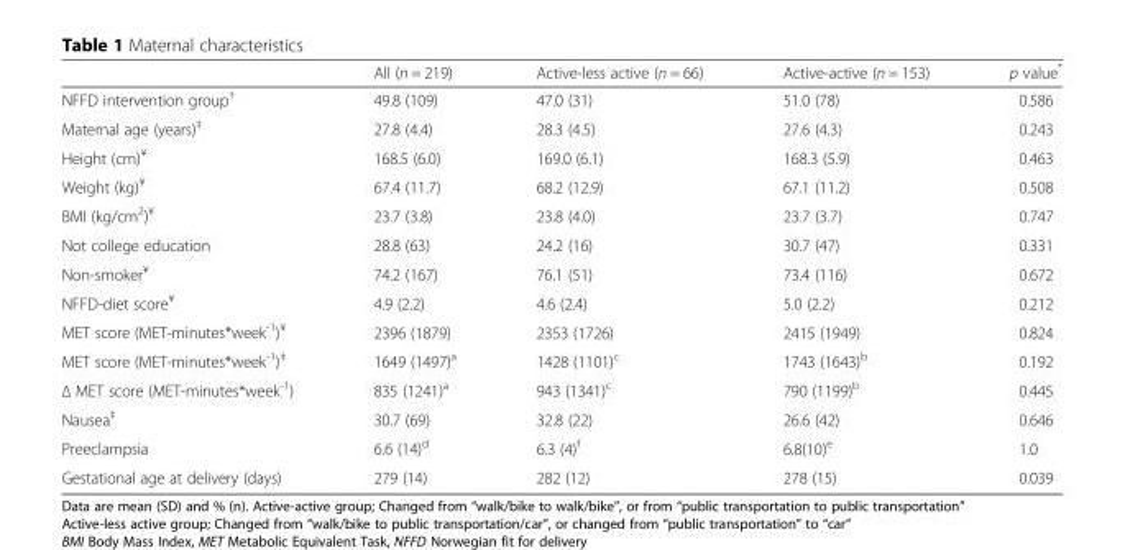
<table><thead><tr><td></td><td>All (n = 219)</td><td>Active-less active (n = 66)</td><td>Active-active (n = 153)</td><td>p value*</td></tr></thead><tbody><tr><td>NFFD intervention group<sup>†</sup></td><td>49.8 (109)</td><td>47.0 (31)</td><td>51.0 (78)</td><td>0.586</td></tr><tr><td>Maternal age (years)<sup>‡</sup></td><td>27.8 (4.4)</td><td>28.3 (4.5)</td><td>27.6 (4.3)</td><td>0.243</td></tr><tr><td>Height (cm)<sup>¥</sup></td><td>168.5 (6.0)</td><td>169.0 (6.1)</td><td>168.3 (5.9)</td><td>0.463</td></tr><tr><td>Weight (kg)<sup>¥</sup></td><td>67.4 (11.7)</td><td>68.2 (12.9)</td><td>67.1 (11.2)</td><td>0.508</td></tr><tr><td>BMI (kg/cm<sup>2</sup>)<sup>¥</sup></td><td>23.7 (3.8)</td><td>23.8 (4.0)</td><td>23.7 (3.7)</td><td>0.747</td></tr><tr><td>Not college education</td><td>28.8 (63)</td><td>24.2 (16)</td><td>30.7 (47)</td><td>0.331</td></tr><tr><td>Non-smoker<sup>¥</sup></td><td>74.2 (167)</td><td>76.1 (51)</td><td>73.4 (116)</td><td>0.672</td></tr><tr><td>NFFD-diet score<sup>¥</sup></td><td>4.9 (2.2)</td><td>4.6 (2.4)</td><td>5.0 (2.2)</td><td>0.212</td></tr><tr><td>MET score (MET-minutes*week<sup>-1</sup>)<sup>¥</sup></td><td>2396 (1879)</td><td>2353 (1726)</td><td>2415 (1949)</td><td>0.824</td></tr><tr><td>MET score (MET-minutes*week<sup>-1</sup>)<sup>‡</sup></td><td>1649 (1497)<sup>a</sup></td><td>1428 (1101)<sup>c</sup></td><td>1743 (1643)<sup>b</sup></td><td>0.192</td></tr><tr><td>Δ MET score (MET-minutes*week-1)</td><td>835 (1241)<sup>a</sup></td><td>943 (1341)<sup>c</sup></td><td>790 (1199)<sup>b</sup></td><td>0.445</td></tr><tr><td>Nausea<sup>‡</sup></td><td>30.7 (69)</td><td>32.8 (22)</td><td>26.6 (42)</td><td>0.646</td></tr><tr><td>Preeclampsia</td><td>6.6 (14)<sup>d</sup></td><td>6.3 (4)<sup>f</sup></td><td>6.8(10)<sup>e</sup></td><td>1.0</td></tr><tr><td>Gestational age at delivery (days)</td><td>279 (14)</td><td>282 (12)</td><td>278 (15)</td><td>0.039</td></tr></tbody></table>